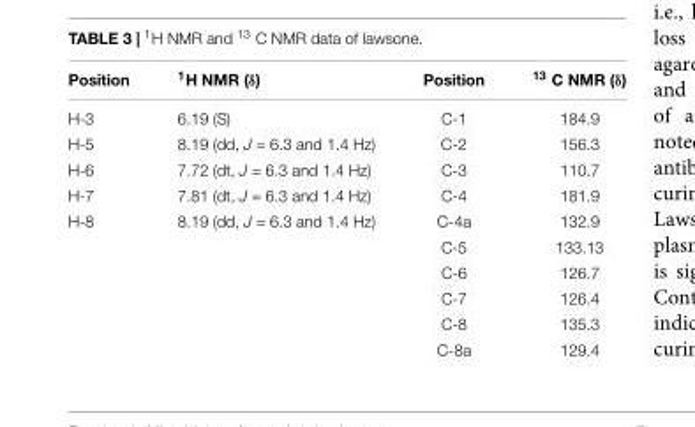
<table><thead><tr><td>Position</td><td><sup>1</sup>H NMR (δ)</td><td>Position</td><td><sup>13</sup> C NMR (δ)</td></tr></thead><tbody><tr><td>H-3</td><td>6.19 (S)</td><td>C-1</td><td>184.9</td></tr><tr><td>H-5</td><td>8.19 (dd, J = 6.3 and 1.4 Hz)</td><td>C-2</td><td>156.3</td></tr><tr><td>H-6</td><td>7.72 (dt, J = 6.3 and 1.4 Hz)</td><td>C-3</td><td>110.7</td></tr><tr><td>H-7</td><td>7.81 (dt, J = 6.3 and 1.4 Hz)</td><td>C-4</td><td>181.9</td></tr><tr><td rowspan="6">H-8</td><td>8.19 (dd, J = 6.3 and 1.4 Hz)</td><td>C-4a</td><td>132.9</td></tr><tr><td></td><td>C-5</td><td>133.13</td></tr><tr><td></td><td>C-6</td><td>126.7</td></tr><tr><td></td><td>C-7</td><td>126.4</td></tr><tr><td></td><td>C-8</td><td>135.3</td></tr><tr><td></td><td>C-8a</td><td>129.4</td></tr></tbody></table>